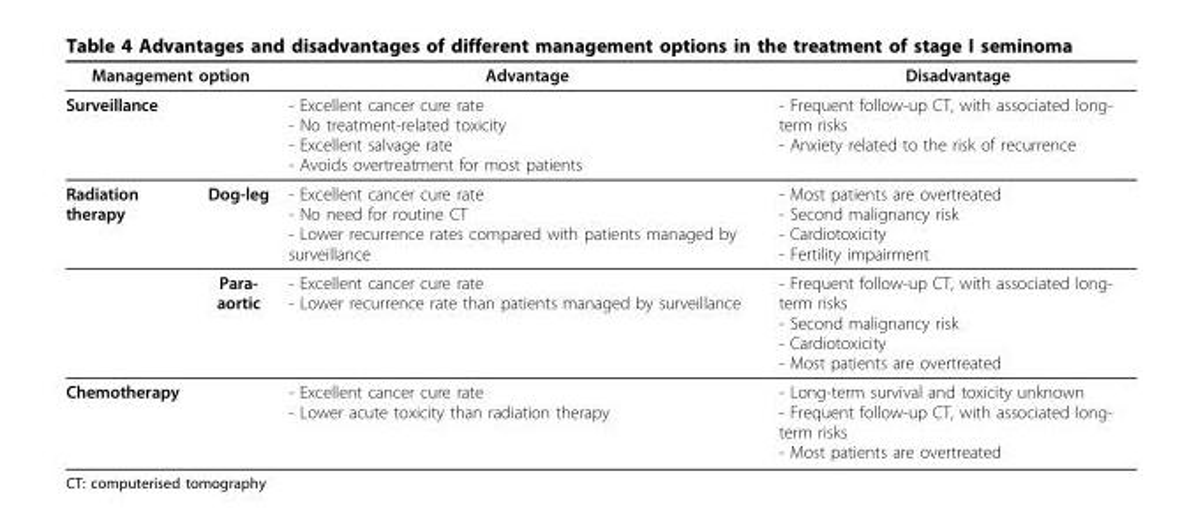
<table><thead><tr><td rowspan="2" colspan="2">Management option Surveillance</td><td rowspan="3">Advantage - Excellent cancer cure rate - No treatment-related toxicity - Excellent salvage rate - Avoids overtreatment for most patients - Excellent cancer cure rate - No need for routine CT - Lower recurrence rates compared with patients managed by surveillance</td><td rowspan="3">Disadvantage - Frequent follow-up CT, with associated long- term risks - Anxiety related to the risk of recurrence - Most patients are overtreated - Second malignancy risk - Cardiotoxicity - Fertility impairment</td></tr><tr></tr><tr><td>Radiation therapy</td><td>Dog-leg</td></tr></thead><tbody><tr><td></td><td>Para- aortic</td><td>- Excellent cancer cure rate - Lower recurrence rate than patients managed by surveillance</td><td>- Frequent follow-up CT, with associated long- term risks - Second malignancy risk - Cardiotoxicity - Most patients are overtreated</td></tr><tr><td colspan="2">Chemotherapy</td><td>- Excellent cancer cure rate - Lower acute toxicity than radiation therapy</td><td>- Long-term survival and toxicity unknown - Frequent follow-up CT, with associated long- term risks - Most patients are overtreated</td></tr></tbody></table>